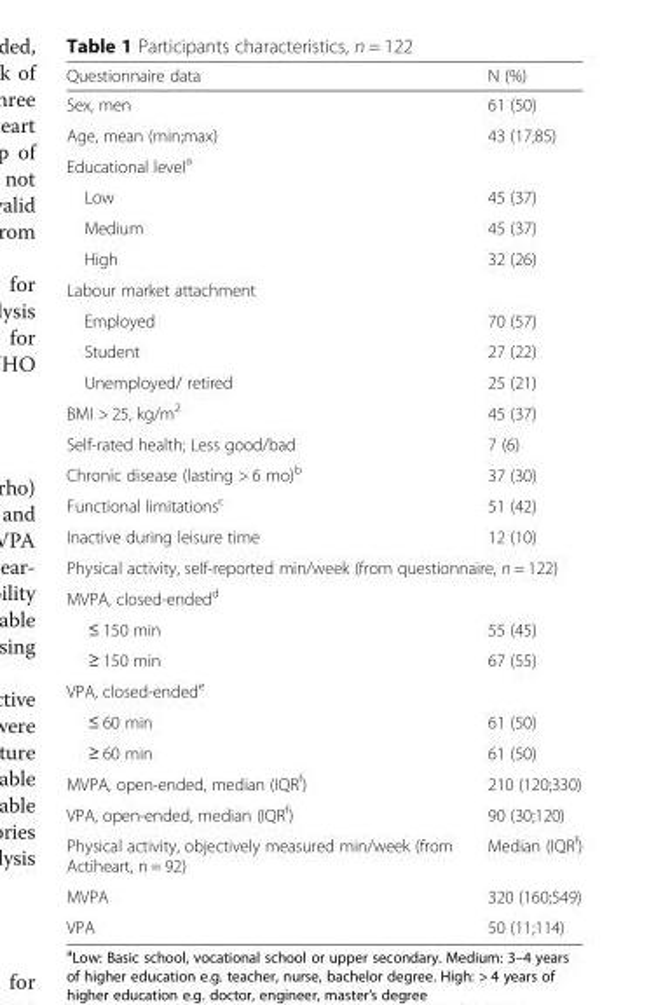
<table><thead><tr><td>Questionnaire data</td><td>N (%)</td></tr></thead><tbody><tr><td>Sex, men</td><td>61 (50)</td></tr><tr><td>Age, mean (min;max)</td><td>43 (17;85)</td></tr><tr><td colspan="2">Educational level<sup>a</sup></td></tr><tr><td>Low</td><td>45 (37)</td></tr><tr><td>Medium</td><td>45 (37)</td></tr><tr><td>High</td><td>32 (26)</td></tr><tr><td colspan="2">Labour market attachment</td></tr><tr><td>Employed</td><td>70 (57)</td></tr><tr><td>Student</td><td>27 (22)</td></tr><tr><td>Unemployed/ retired</td><td>25 (21)</td></tr><tr><td>BMI &gt; 25, kg/m<sup>2</sup></td><td>45 (37)</td></tr><tr><td>Self-rated health; Less good/bad</td><td>7 (6)</td></tr><tr><td>Chronic disease (lasting &gt; 6 mo)<sup>b</sup></td><td>37 (30)</td></tr><tr><td>Functional limitations<sup>c</sup></td><td>51 (42)</td></tr><tr><td>Inactive during leisure time</td><td>12 (10)</td></tr><tr><td colspan="2">Physical activity, self-reported min/week (from questionnaire, n = 122)</td></tr><tr><td colspan="2">MVPA, closed-ended<sup>d</sup></td></tr><tr><td>≤ 150 min</td><td>55 (45)</td></tr><tr><td>≥ 150 min</td><td>67 (55)</td></tr><tr><td colspan="2">VPA, closed-ended<sup>e</sup></td></tr><tr><td>≤ 60 min</td><td>61 (50)</td></tr><tr><td>≥ 60 min</td><td>61 (50)</td></tr><tr><td>MVPA, open-ended, median (IQR<sup>f</sup>)</td><td>210 (120;330)</td></tr><tr><td>VPA, open-ended, median (IQR<sup>f</sup>)</td><td>90 (30;120)</td></tr><tr><td>Physical activity, objectively measured min/week (from Actiheart, n = 92)</td><td>Median (IQR<sup>f</sup>)</td></tr><tr><td>MVPA</td><td>320 (160;549)</td></tr><tr><td>VPA</td><td>50 (11;114)</td></tr></tbody></table>